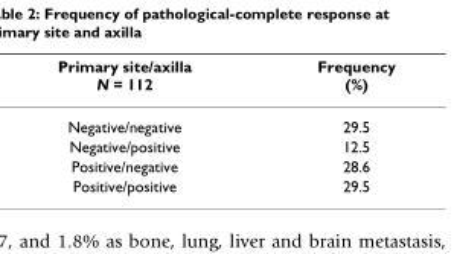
<table><thead><tr><td>Primary site/axilla N = 112</td><td>Frequency (%)</td></tr></thead><tbody><tr><td>Negative/negative</td><td>29.5</td></tr><tr><td>Negative/positive</td><td>12.5</td></tr><tr><td>Positive/negative</td><td>28.6</td></tr><tr><td>Positive/positive</td><td>29.5</td></tr></tbody></table>